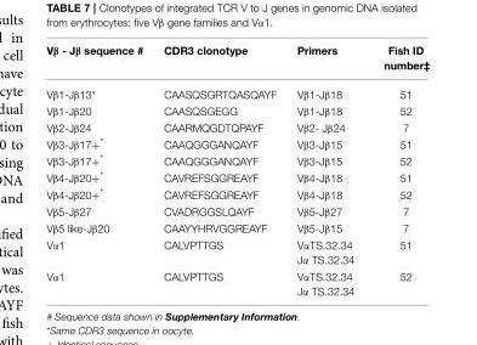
<table><thead><tr><td>Vβ - Jβ sequence #</td><td>CDR3 clonotype</td><td>Primers</td><td>Fish ID number‡</td></tr></thead><tbody><tr><td>Vβ1-Jβ13*</td><td>CAASQSGRTQASQAYF</td><td>Vβ1-Jβ18</td><td>51</td></tr><tr><td>Vβ1-Jβ20</td><td>CAASQSGEGG</td><td>Vβ1-Jβ18</td><td>52</td></tr><tr><td>Vβ2-Jβ24</td><td>CAARMQGDTQPAYF</td><td>Vβ2- Jβ24</td><td>7</td></tr><tr><td>Vβ3-Jβ17+*</td><td>CAAQGGGANQAYF</td><td>Vβ3-Jβ15</td><td>51</td></tr><tr><td>Vβ3-Jβ17+*</td><td>CAAQGGGANQAYF</td><td>Vβ3-Jβ15</td><td>52</td></tr><tr><td>Vβ4-Jβ20+*</td><td>CAVREFSGGREAYF</td><td>Vβ4-Jβ18</td><td>51</td></tr><tr><td>Vβ4-Jβ20+*</td><td>CAVREFSGGREAYF</td><td>Vβ4-Jβ18</td><td>52</td></tr><tr><td>Vβ5-Jβ27</td><td>CVADRGGSLQAYF</td><td>Vβ5-Jβ27</td><td>7</td></tr><tr><td>Vβ5 like-Jβ20</td><td>CAAYYHRVGGREAYF</td><td>Vβ5-Jβ15</td><td>7</td></tr><tr><td>Vα1</td><td>CALVPTTGS</td><td>VαTS.32.34 Jα TS.32.34</td><td>51</td></tr><tr><td>Vα1</td><td>CALVPTTGS</td><td>VαTS.32.34 Jα TS.32.34</td><td>52</td></tr></tbody></table>